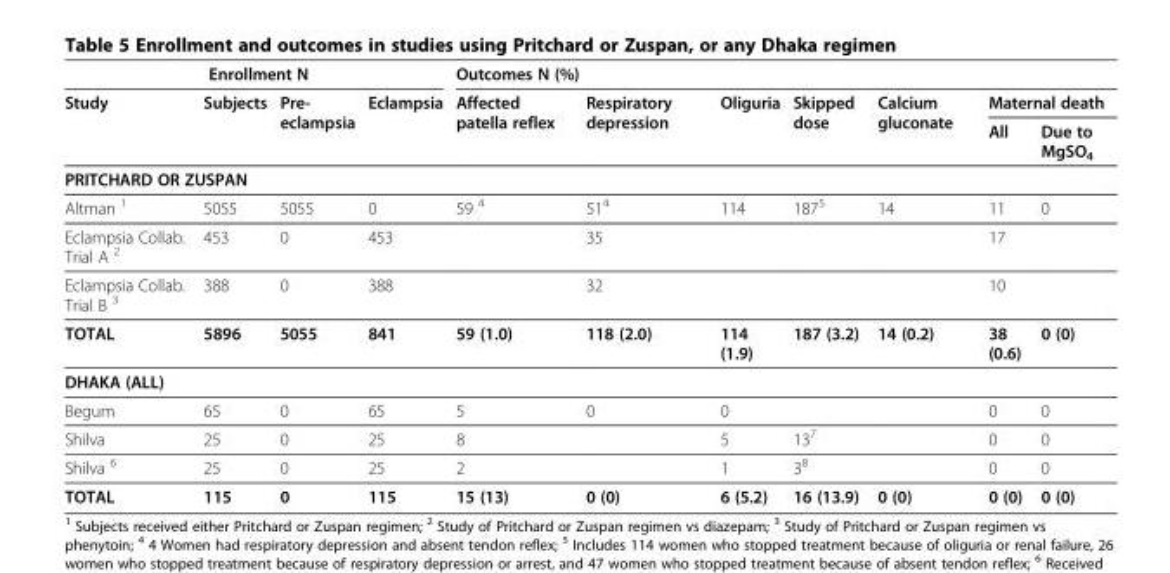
<table><thead><tr><td rowspan="3">Study</td><td colspan="3">Enrollment N</td><td colspan="7">Outcomes N (%)</td></tr><tr><td rowspan="2">Subjects</td><td rowspan="2">Pre- eclampsia</td><td rowspan="2">Eclampsia</td><td rowspan="2">Affected patella reflex</td><td rowspan="2">Respiratory depression</td><td rowspan="2">Oliguria</td><td rowspan="2">Skipped dose</td><td rowspan="2">Calcium gluconate</td><td colspan="2">Maternal death</td></tr><tr><td>All</td><td>Due to MgSO<sub>4</sub></td></tr></thead><tbody><tr><td colspan="11">PRITCHARD OR ZUSPAN</td></tr><tr><td>Altman <sup>1</sup></td><td>5055</td><td>5055</td><td>0</td><td>59 <sup>4</sup></td><td>51<sup>4</sup></td><td>114</td><td>187<sup>5</sup></td><td>14</td><td>11</td><td>0</td></tr><tr><td>Eclampsia Collab. Trial A <sup>2</sup></td><td>453</td><td>0</td><td>453</td><td></td><td>35</td><td></td><td></td><td></td><td>17</td><td></td></tr><tr><td>Eclampsia Collab. Trial B <sup>3</sup></td><td>388</td><td>0</td><td>388</td><td></td><td>32</td><td></td><td></td><td></td><td>10</td><td></td></tr><tr><td>TOTAL</td><td>5896</td><td>5055</td><td>841</td><td>59 (1.0)</td><td>118 (2.0)</td><td>114 (1.9)</td><td>187 (3.2)</td><td>14 (0.2)</td><td>38 (0.6)</td><td>0 (0)</td></tr><tr><td colspan="11">DHAKA (ALL)</td></tr><tr><td>Begum</td><td>65</td><td>0</td><td>65</td><td>5</td><td>0</td><td>0</td><td></td><td></td><td>0</td><td>0</td></tr><tr><td>Shilva</td><td>25</td><td>0</td><td>25</td><td>8</td><td></td><td>5</td><td>13<sup>7</sup></td><td></td><td>0</td><td>0</td></tr><tr><td>Shilva <sup>6</sup></td><td>25</td><td>0</td><td>25</td><td>2</td><td></td><td>1</td><td>3<sup>8</sup></td><td></td><td>0</td><td>0</td></tr><tr><td>TOTAL</td><td>115</td><td>0</td><td>115</td><td>15 (13)</td><td>0 (0)</td><td>6 (5.2)</td><td>16 (13.9)</td><td>0 (0)</td><td>0 (0)</td><td>0 (0)</td></tr></tbody></table>